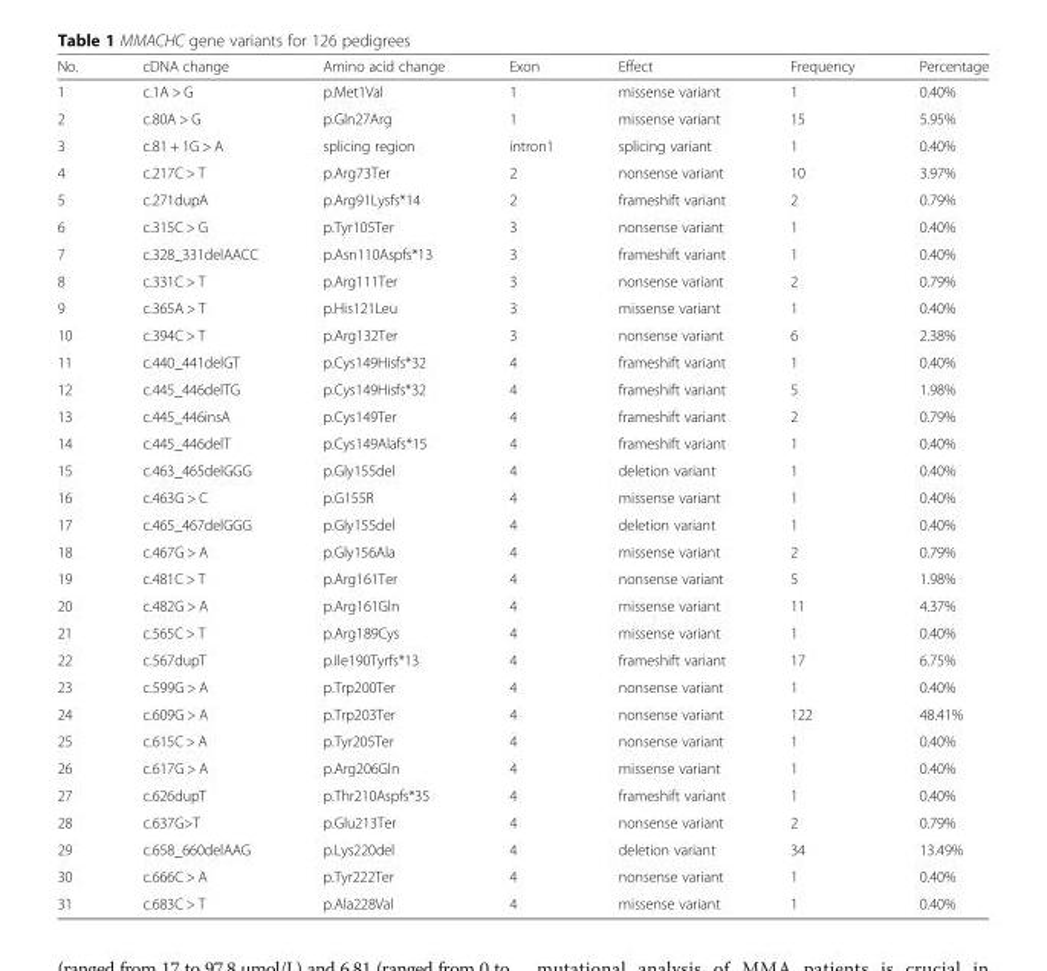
<table><thead><tr><td>No.</td><td>cDNA change</td><td>Amino acid change</td><td>Exon</td><td>Effect</td><td>Frequency</td><td>Percentage</td></tr></thead><tbody><tr><td>1</td><td>c.1A &gt; G</td><td>p.Met1Val</td><td>1</td><td>missense variant</td><td>1</td><td>0.40%</td></tr><tr><td>2</td><td>c.80A &gt; G</td><td>p.Gln27Arg</td><td>1</td><td>missense variant</td><td>15</td><td>5.95%</td></tr><tr><td>3</td><td>c.81 + 1G &gt; A</td><td>splicing region</td><td>intron1</td><td>splicing variant</td><td>1</td><td>0.40%</td></tr><tr><td>4</td><td>c.217C &gt; T</td><td>p.Arg73Ter</td><td>2</td><td>nonsense variant</td><td>10</td><td>3.97%</td></tr><tr><td>5</td><td>c.271dupA</td><td>p.Arg91Lysfs*14</td><td>2</td><td>frameshift variant</td><td>2</td><td>0.79%</td></tr><tr><td>6</td><td>c.315C &gt; G</td><td>p.Tyr105Ter</td><td>3</td><td>nonsense variant</td><td>1</td><td>0.40%</td></tr><tr><td>7</td><td>c.328_331delAACC</td><td>p.Asn110Aspfs*13</td><td>3</td><td>frameshift variant</td><td>1</td><td>0.40%</td></tr><tr><td>8</td><td>c.331C &gt; T</td><td>p.Arg111Ter</td><td>3</td><td>nonsense variant</td><td>2</td><td>0.79%</td></tr><tr><td>9</td><td>c.365A &gt; T</td><td>p.His121Leu</td><td>3</td><td>missense variant</td><td>1</td><td>0.40%</td></tr><tr><td>10</td><td>c.394C &gt; T</td><td>p.Arg132Ter</td><td>3</td><td>nonsense variant</td><td>6</td><td>2.38%</td></tr><tr><td>11</td><td>c.440_441delGT</td><td>p.Cys149Hisfs*32</td><td>4</td><td>frameshift variant</td><td>1</td><td>0.40%</td></tr><tr><td>12</td><td>c.445_446delTG</td><td>p.Cys149Hisfs*32</td><td>4</td><td>frameshift variant</td><td>5</td><td>1.98%</td></tr><tr><td>13</td><td>c.445_446insA</td><td>p.Cys149Ter</td><td>4</td><td>frameshift variant</td><td>2</td><td>0.79%</td></tr><tr><td>14</td><td>c.445_446delT</td><td>p.Cys149Alafs*15</td><td>4</td><td>frameshift variant</td><td>1</td><td>0.40%</td></tr><tr><td>15</td><td>c.463_465delGGG</td><td>p.Gly155del</td><td>4</td><td>deletion variant</td><td>1</td><td>0.40%</td></tr><tr><td>16</td><td>c.463G &gt; C</td><td>p.G155R</td><td>4</td><td>missense variant</td><td>1</td><td>0.40%</td></tr><tr><td>17</td><td>c.465_467delGGG</td><td>p.Gly155del</td><td>4</td><td>deletion variant</td><td>1</td><td>0.40%</td></tr><tr><td>18</td><td>c.467G &gt; A</td><td>p.Gly156Ala</td><td>4</td><td>missense variant</td><td>2</td><td>0.79%</td></tr><tr><td>19</td><td>c.481C &gt; T</td><td>p.Arg161Ter</td><td>4</td><td>nonsense variant</td><td>5</td><td>1.98%</td></tr><tr><td>20</td><td>c.482G &gt; A</td><td>p.Arg161Gln</td><td>4</td><td>missense variant</td><td>11</td><td>4.37%</td></tr><tr><td>21</td><td>c.565C &gt; T</td><td>p.Arg189Cys</td><td>4</td><td>missense variant</td><td>1</td><td>0.40%</td></tr><tr><td>22</td><td>c.567dupT</td><td>p.Ile190Tyrfs*13</td><td>4</td><td>frameshift variant</td><td>17</td><td>6.75%</td></tr><tr><td>23</td><td>c.599G &gt; A</td><td>p.Trp200Ter</td><td>4</td><td>nonsense variant</td><td>1</td><td>0.40%</td></tr><tr><td>24</td><td>c.609G &gt; A</td><td>p.Trp203Ter</td><td>4</td><td>nonsense variant</td><td>122</td><td>48.41%</td></tr><tr><td>25</td><td>c.615C &gt; A</td><td>p.Tyr205Ter</td><td>4</td><td>nonsense variant</td><td>1</td><td>0.40%</td></tr><tr><td>26</td><td>c.617G &gt; A</td><td>p.Arg206Gln</td><td>4</td><td>missense variant</td><td>1</td><td>0.40%</td></tr><tr><td>27</td><td>c.626dupT</td><td>p.Thr210Aspfs*35</td><td>4</td><td>frameshift variant</td><td>1</td><td>0.40%</td></tr><tr><td>28</td><td>c.637G&gt;T</td><td>p.Glu213Ter</td><td>4</td><td>nonsense variant</td><td>2</td><td>0.79%</td></tr><tr><td>29</td><td>c.658_660delAAG</td><td>p.Lys220del</td><td>4</td><td>deletion variant</td><td>34</td><td>13.49%</td></tr><tr><td>30</td><td>c.666C &gt; A</td><td>p.Tyr222Ter</td><td>4</td><td>nonsense variant</td><td>1</td><td>0.40%</td></tr><tr><td>31</td><td>c.683C &gt; T</td><td>p.Ala228Val</td><td>4</td><td>missense variant</td><td>1</td><td>0.40%</td></tr></tbody></table>